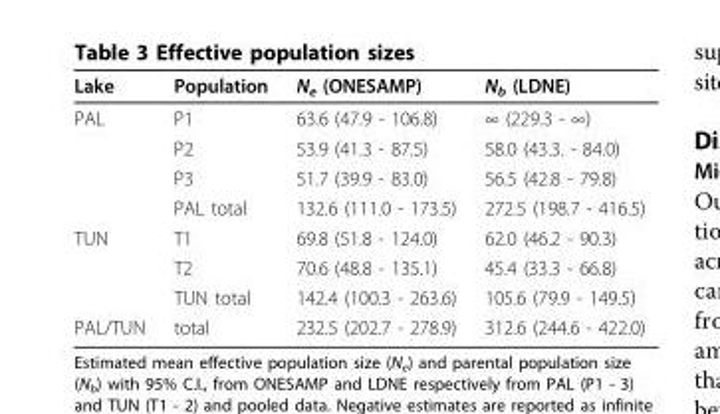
<table><thead><tr><td>Lake</td><td>Population</td><td>N<sub>e</sub> (ONESAMP)</td><td>N<sub>b</sub> (LDNE)</td></tr></thead><tbody><tr><td rowspan="4">PAL</td><td>P1</td><td>63.6 (47.9 - 106.8)</td><td>∞ (229.3 - ∞)</td></tr><tr><td>P2</td><td>53.9 (41.3 - 87.5)</td><td>58.0 (43.3. - 84.0)</td></tr><tr><td>P3</td><td>51.7 (39.9 - 83.0)</td><td>56.5 (42.8 - 79.8)</td></tr><tr><td>PAL total</td><td>132.6 (111.0 - 173.5)</td><td>272.5 (198.7 - 416.5)</td></tr><tr><td rowspan="3">TUN</td><td>T1</td><td>69.8 (51.8 - 124.0)</td><td>62.0 (46.2 - 90.3)</td></tr><tr><td>T2</td><td>70.6 (48.8 - 135.1)</td><td>45.4 (33.3 - 66.8)</td></tr><tr><td>TUN total</td><td>142.4 (100.3 - 263.6)</td><td>105.6 (79.9 - 149.5)</td></tr><tr><td>PAL/TUN</td><td>total</td><td>232.5 (202.7 - 278.9)</td><td>312.6 (244.6 - 422.0)</td></tr></tbody></table>